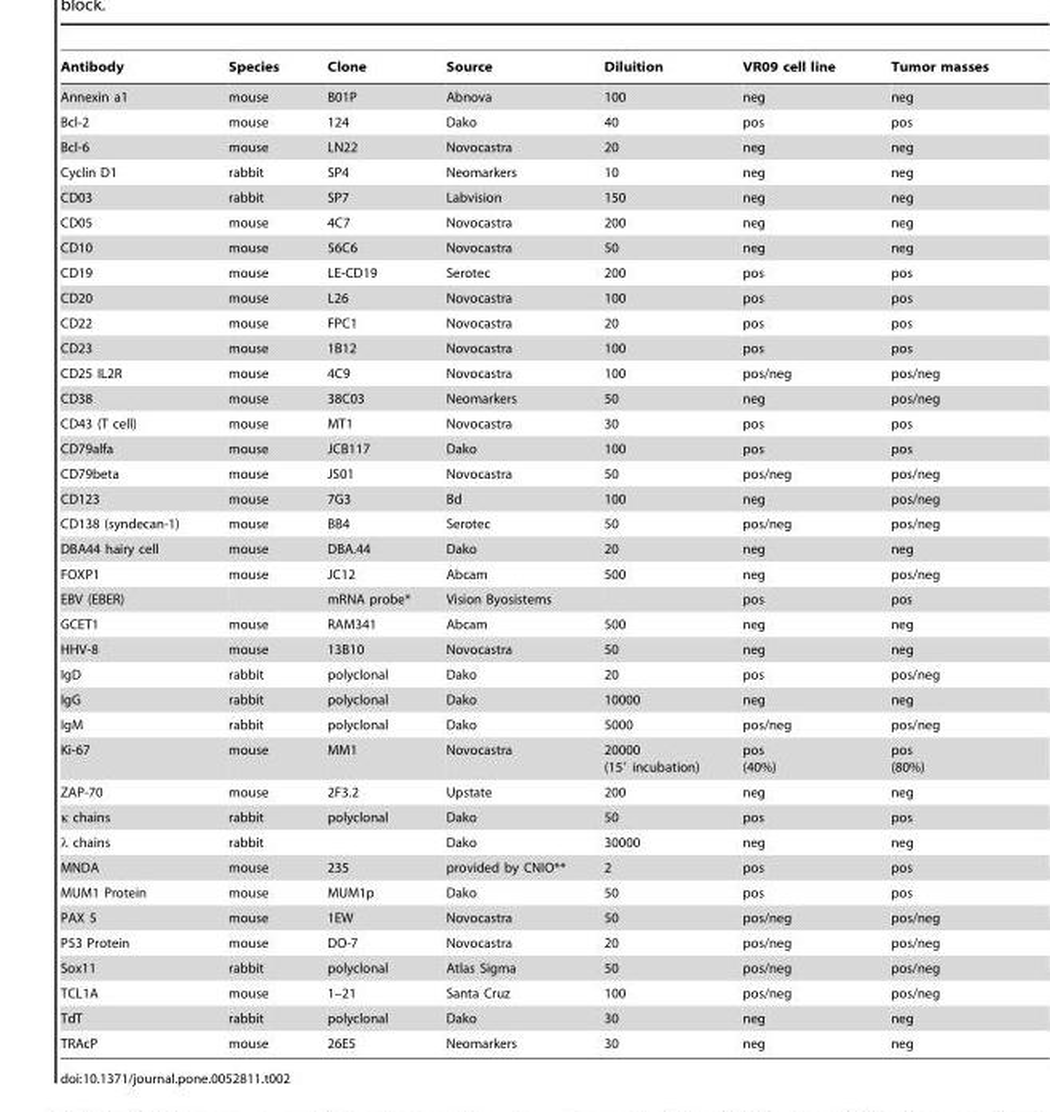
<table><thead><tr><td>Antibody</td><td>Species</td><td>Clone</td><td>Source</td><td>Diluition</td><td>VR09 cell line</td><td>Tumor masses</td></tr></thead><tbody><tr><td>Annexin a1</td><td>mouse</td><td>B01P</td><td>Abnova</td><td>100</td><td>neg</td><td>neg</td></tr><tr><td>Bcl-2</td><td>mouse</td><td>124</td><td>Dako</td><td>40</td><td>pos</td><td>pos</td></tr><tr><td>Bcl-6</td><td>mouse</td><td>LN22</td><td>Novocastra</td><td>20</td><td>neg</td><td>neg</td></tr><tr><td>Cyclin D1</td><td>rabbit</td><td>SP4</td><td>Neomarkers</td><td>10</td><td>neg</td><td>neg</td></tr><tr><td>CD03</td><td>rabbit</td><td>SP7</td><td>Labvision</td><td>150</td><td>neg</td><td>neg</td></tr><tr><td>CD05</td><td>mouse</td><td>4C7</td><td>Novocastra</td><td>200</td><td>neg</td><td>neg</td></tr><tr><td>CD10</td><td>mouse</td><td>56C6</td><td>Novocastra</td><td>50</td><td>neg</td><td>neg</td></tr><tr><td>CD19</td><td>mouse</td><td>LE-CD19</td><td>Serotec</td><td>200</td><td>pos</td><td>pos</td></tr><tr><td>CD20</td><td>mouse</td><td>L26</td><td>Novocastra</td><td>100</td><td>pos</td><td>pos</td></tr><tr><td>CD22</td><td>mouse</td><td>FPC1</td><td>Novocastra</td><td>20</td><td>pos</td><td>pos</td></tr><tr><td>CD23</td><td>mouse</td><td>1B12</td><td>Novocastra</td><td>100</td><td>pos</td><td>pos</td></tr><tr><td>CD25 IL2R</td><td>mouse</td><td>4C9</td><td>Novocastra</td><td>100</td><td>pos/neg</td><td>pos/neg</td></tr><tr><td>CD38</td><td>mouse</td><td>38C03</td><td>Neomarkers</td><td>50</td><td>neg</td><td>pos/neg</td></tr><tr><td>CD43 (T cell)</td><td>mouse</td><td>MT1</td><td>Novocastra</td><td>30</td><td>pos</td><td>pos</td></tr><tr><td>CD79alfa</td><td>mouse</td><td>JCB117</td><td>Dako</td><td>100</td><td>pos</td><td>pos</td></tr><tr><td>CD79beta</td><td>mouse</td><td>JS01</td><td>Novocastra</td><td>50</td><td>pos/neg</td><td>pos/neg</td></tr><tr><td>CD123</td><td>mouse</td><td>7G3</td><td>Bd</td><td>100</td><td>neg</td><td>pos/neg</td></tr><tr><td>CD138 (syndecan-1)</td><td>mouse</td><td>BB4</td><td>Serotec</td><td>50</td><td>pos/neg</td><td>pos/neg</td></tr><tr><td>DBA44 hairy cell</td><td>mouse</td><td>DBA.44</td><td>Dako</td><td>20</td><td>neg</td><td>neg</td></tr><tr><td>FOXP1</td><td>mouse</td><td>JC12</td><td>Abcam</td><td>500</td><td>neg</td><td>pos/neg</td></tr><tr><td>EBV (EBER)</td><td></td><td>mRNA probe*</td><td>Vision Byosistems</td><td></td><td>pos</td><td>pos</td></tr><tr><td>GCET1</td><td>mouse</td><td>RAM341</td><td>Abcam</td><td>500</td><td>neg</td><td>neg</td></tr><tr><td>HHV-8</td><td>mouse</td><td>13B10</td><td>Novocastra</td><td>50</td><td>neg</td><td>neg</td></tr><tr><td>IgD</td><td>rabbit</td><td>polyclonal</td><td>Dako</td><td>20</td><td>pos</td><td>pos/neg</td></tr><tr><td>IgG</td><td>rabbit</td><td>polyclonal</td><td>Dako</td><td>10000</td><td>neg</td><td>neg</td></tr><tr><td>IgM</td><td>rabbit</td><td>polyclonal</td><td>Dako</td><td>5000</td><td>pos/neg</td><td>pos/neg</td></tr><tr><td>Ki-67</td><td>mouse</td><td>MM1</td><td>Novocastra</td><td>20000 (15′ incubation)</td><td>pos (40%)</td><td>pos (80%)</td></tr><tr><td>ZAP-70</td><td>mouse</td><td>2F3.2</td><td>Upstate</td><td>200</td><td>neg</td><td>neg</td></tr><tr><td>κ chains</td><td>rabbit</td><td>polyclonal</td><td>Dako</td><td>50</td><td>pos</td><td>pos</td></tr><tr><td>λ chains</td><td>rabbit</td><td></td><td>Dako</td><td>30000</td><td>neg</td><td>neg</td></tr><tr><td>MNDA</td><td>mouse</td><td>235</td><td>provided by CNIO**</td><td>2</td><td>pos</td><td>pos</td></tr><tr><td>MUM1 Protein</td><td>mouse</td><td>MUM1p</td><td>Dako</td><td>50</td><td>pos</td><td>pos</td></tr><tr><td>PAX 5</td><td>mouse</td><td>1EW</td><td>Novocastra</td><td>50</td><td>pos/neg</td><td>pos/neg</td></tr><tr><td>P53 Protein</td><td>mouse</td><td>DO-7</td><td>Novocastra</td><td>20</td><td>pos/neg</td><td>pos/neg</td></tr><tr><td>Sox11</td><td>rabbit</td><td>polyclonal</td><td>Atlas Sigma</td><td>50</td><td>pos/neg</td><td>pos/neg</td></tr><tr><td>TCL1A</td><td>mouse</td><td>1–21</td><td>Santa Cruz</td><td>100</td><td>pos/neg</td><td>pos/neg</td></tr><tr><td>TdT</td><td>rabbit</td><td>polyclonal</td><td>Dako</td><td>30</td><td>neg</td><td>neg</td></tr><tr><td>TRAcP</td><td>mouse</td><td>26E5</td><td>Neomarkers</td><td>30</td><td>neg</td><td>neg</td></tr></tbody></table>